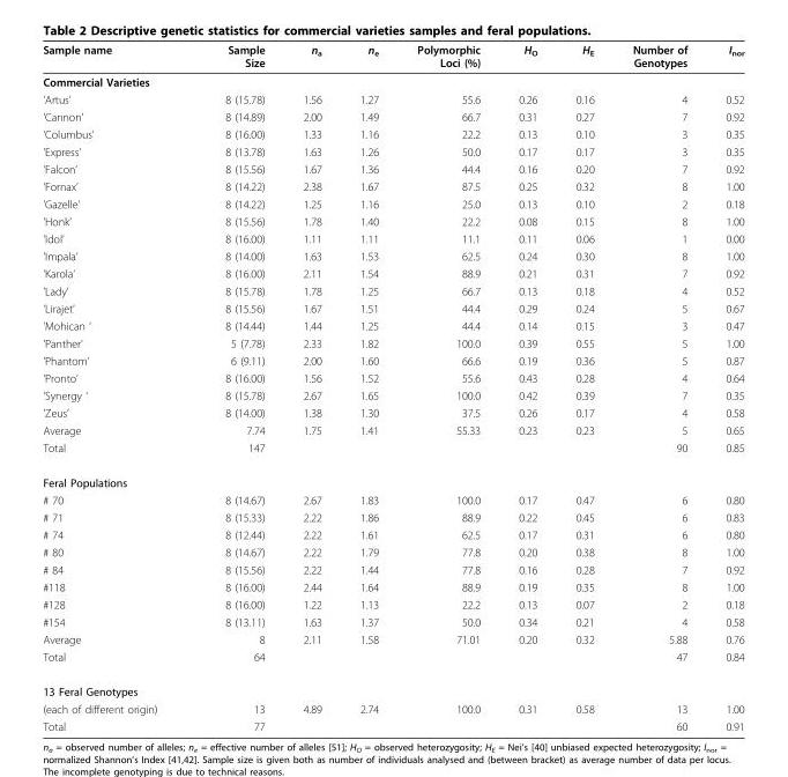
<table><thead><tr><td>Sample name</td><td>Sample Size</td><td>n<sub>a</sub></td><td>n<sub>e</sub></td><td>Polymorphic Loci (%)</td><td>H<sub>O</sub></td><td>H<sub>E</sub></td><td>Number of Genotypes</td><td>I<sub>nor</sub></td></tr></thead><tbody><tr><td colspan="9">Commercial Varieties</td></tr><tr><td>’Artus’</td><td>8 (15.78)</td><td>1.56</td><td>1.27</td><td>55.6</td><td>0.26</td><td>0.16</td><td>4</td><td>0.52</td></tr><tr><td>’Cannon’</td><td>8 (14.89)</td><td>2.00</td><td>1.49</td><td>66.7</td><td>0.31</td><td>0.27</td><td>7</td><td>0.92</td></tr><tr><td>’Columbus’</td><td>8 (16.00)</td><td>1.33</td><td>1.16</td><td>22.2</td><td>0.13</td><td>0.10</td><td>3</td><td>0.35</td></tr><tr><td>’Express’</td><td>8 (13.78)</td><td>1.63</td><td>1.26</td><td>50.0</td><td>0.17</td><td>0.17</td><td>3</td><td>0.35</td></tr><tr><td>’Falcon’</td><td>8 (15.56)</td><td>1.67</td><td>1.36</td><td>44.4</td><td>0.16</td><td>0.20</td><td>7</td><td>0.92</td></tr><tr><td>’Fornax’</td><td>8 (14.22)</td><td>2.38</td><td>1.67</td><td>87.5</td><td>0.25</td><td>0.32</td><td>8</td><td>1.00</td></tr><tr><td>’Gazelle’</td><td>8 (14.22)</td><td>1.25</td><td>1.16</td><td>25.0</td><td>0.13</td><td>0.10</td><td>2</td><td>0.18</td></tr><tr><td>’Honk’</td><td>8 (15.56)</td><td>1.78</td><td>1.40</td><td>22.2</td><td>0.08</td><td>0.15</td><td>8</td><td>1.00</td></tr><tr><td>’Idol’</td><td>8 (16.00)</td><td>1.11</td><td>1.11</td><td>11.1</td><td>0.11</td><td>0.06</td><td>1</td><td>0.00</td></tr><tr><td>’Impala’</td><td>8 (14.00)</td><td>1.63</td><td>1.53</td><td>62.5</td><td>0.24</td><td>0.30</td><td>8</td><td>1.00</td></tr><tr><td>’Karola’</td><td>8 (16.00)</td><td>2.11</td><td>1.54</td><td>88.9</td><td>0.21</td><td>0.31</td><td>7</td><td>0.92</td></tr><tr><td>’Lady’</td><td>8 (15.78)</td><td>1.78</td><td>1.25</td><td>66.7</td><td>0.13</td><td>0.18</td><td>4</td><td>0.52</td></tr><tr><td>’Lirajet’</td><td>8 (15.56)</td><td>1.67</td><td>1.51</td><td>44.4</td><td>0.29</td><td>0.24</td><td>5</td><td>0.67</td></tr><tr><td>’Mohican ‘</td><td>8 (14.44)</td><td>1.44</td><td>1.25</td><td>44.4</td><td>0.14</td><td>0.15</td><td>3</td><td>0.47</td></tr><tr><td>’Panther’</td><td>5 (7.78)</td><td>2.33</td><td>1.82</td><td>100.0</td><td>0.39</td><td>0.55</td><td>5</td><td>1.00</td></tr><tr><td>’Phantom’</td><td>6 (9.11)</td><td>2.00</td><td>1.60</td><td>66.6</td><td>0.19</td><td>0.36</td><td>5</td><td>0.87</td></tr><tr><td>’Pronto’</td><td>8 (16.00)</td><td>1.56</td><td>1.52</td><td>55.6</td><td>0.43</td><td>0.28</td><td>4</td><td>0.64</td></tr><tr><td>’Synergy ‘</td><td>8 (15.78)</td><td>2.67</td><td>1.65</td><td>100.0</td><td>0.42</td><td>0.39</td><td>7</td><td>0.35</td></tr><tr><td>’Zeus’</td><td>8 (14.00)</td><td>1.38</td><td>1.30</td><td>37.5</td><td>0.26</td><td>0.17</td><td>4</td><td>0.58</td></tr><tr><td>Average</td><td>7.74</td><td>1.75</td><td>1.41</td><td>55.33</td><td>0.23</td><td>0.23</td><td>5</td><td>0.65</td></tr><tr><td>Total</td><td>147</td><td></td><td></td><td></td><td></td><td></td><td>90</td><td>0.85</td></tr><tr><td colspan="9">Feral Populations</td></tr><tr><td># 70</td><td>8 (14.67)</td><td>2.67</td><td>1.83</td><td>100.0</td><td>0.17</td><td>0.47</td><td>6</td><td>0.80</td></tr><tr><td># 71</td><td>8 (15.33)</td><td>2.22</td><td>1.86</td><td>88.9</td><td>0.22</td><td>0.45</td><td>6</td><td>0.83</td></tr><tr><td># 74</td><td>8 (12.44)</td><td>2.22</td><td>1.61</td><td>62.5</td><td>0.17</td><td>0.31</td><td>6</td><td>0.80</td></tr><tr><td># 80</td><td>8 (14.67)</td><td>2.22</td><td>1.79</td><td>77.8</td><td>0.20</td><td>0.38</td><td>8</td><td>1.00</td></tr><tr><td># 84</td><td>8 (15.56)</td><td>2.22</td><td>1.44</td><td>77.8</td><td>0.16</td><td>0.28</td><td>7</td><td>0.92</td></tr><tr><td>#118</td><td>8 (16.00)</td><td>2.44</td><td>1.64</td><td>88.9</td><td>0.19</td><td>0.35</td><td>8</td><td>1.00</td></tr><tr><td>#128</td><td>8 (16.00)</td><td>1.22</td><td>1.13</td><td>22.2</td><td>0.13</td><td>0.07</td><td>2</td><td>0.18</td></tr><tr><td>#154</td><td>8 (13.11)</td><td>1.63</td><td>1.37</td><td>50.0</td><td>0.34</td><td>0.21</td><td>4</td><td>0.58</td></tr><tr><td>Average</td><td>8</td><td>2.11</td><td>1.58</td><td>71.01</td><td>0.20</td><td>0.32</td><td>5.88</td><td>0.76</td></tr><tr><td>Total</td><td>64</td><td></td><td></td><td></td><td></td><td></td><td>47</td><td>0.84</td></tr><tr><td colspan="9">13 Feral Genotypes</td></tr><tr><td>(each of different origin)</td><td>13</td><td>4.89</td><td>2.74</td><td>100.0</td><td>0.31</td><td>0.58</td><td>13</td><td>1.00</td></tr><tr><td>Total</td><td>77</td><td></td><td></td><td></td><td></td><td></td><td>60</td><td>0.91</td></tr></tbody></table>